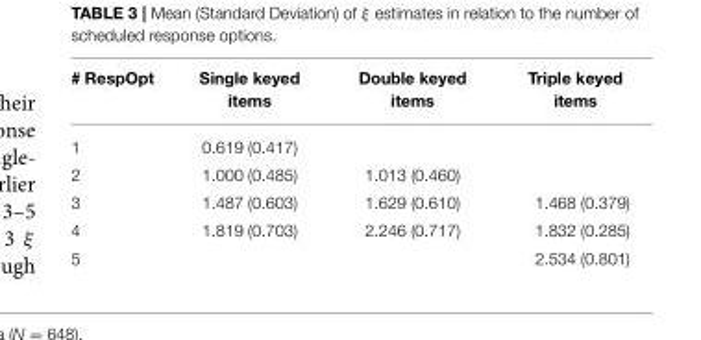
<table><thead><tr><td># RespOpt</td><td>Single keyed items</td><td>Double keyed items</td><td>Triple keyed items</td></tr></thead><tbody><tr><td>1</td><td>0.619 (0.417)</td><td></td><td></td></tr><tr><td>2</td><td>1.000 (0.485)</td><td>1.013 (0.460)</td><td></td></tr><tr><td>3</td><td>1.487 (0.603)</td><td>1.629 (0.610)</td><td>1.468 (0.379)</td></tr><tr><td>4</td><td>1.819 (0.703)</td><td>2.246 (0.717)</td><td>1.832 (0.285)</td></tr><tr><td>5</td><td></td><td></td><td>2.534 (0.801)</td></tr></tbody></table>